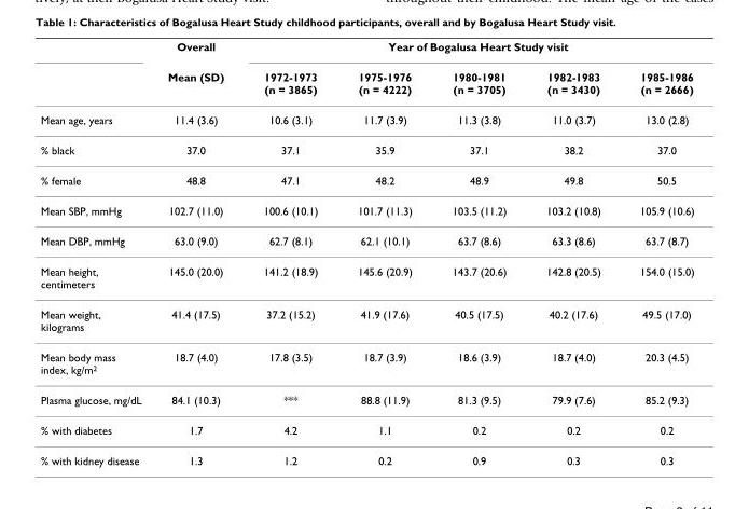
<table><thead><tr><td rowspan="2"></td><td rowspan="2">Overall Mean (SD)</td><td colspan="5">Year of Bogalusa Heart Study visit</td></tr><tr><td>1972-1973 (n = 3865)</td><td>1975-1976 (n = 4222)</td><td>1980-1981 (n = 3705)</td><td>1982-1983 (n = 3430)</td><td>1985-1986 (n = 2666)</td></tr></thead><tbody><tr><td>Mean age, years</td><td>11.4 (3.6)</td><td>10.6 (3.1)</td><td>11.7 (3.9)</td><td>11.3 (3.8)</td><td>11.0 (3.7)</td><td>13.0 (2.8)</td></tr><tr><td>% black</td><td>37.0</td><td>37.1</td><td>35.9</td><td>37.1</td><td>38.2</td><td>37.0</td></tr><tr><td>% female</td><td>48.8</td><td>47.1</td><td>48.2</td><td>48.9</td><td>49.8</td><td>50.5</td></tr><tr><td>Mean SBP, mmHg</td><td>102.7 (11.0)</td><td>100.6 (10.1)</td><td>101.7 (11.3)</td><td>103.5 (11.2)</td><td>103.2 (10.8)</td><td>105.9 (10.6)</td></tr><tr><td>Mean DBP, mmHg</td><td>63.0 (9.0)</td><td>62.7 (8.1)</td><td>62.1 (10.1)</td><td>63.7 (8.6)</td><td>63.3 (8.6)</td><td>63.7 (8.7)</td></tr><tr><td>Mean height, centimeters</td><td>145.0 (20.0)</td><td>141.2 (18.9)</td><td>145.6 (20.9)</td><td>143.7 (20.6)</td><td>142.8 (20.5)</td><td>154.0 (15.0)</td></tr><tr><td>Mean weight, kilograms</td><td>41.4 (17.5)</td><td>37.2 (15.2)</td><td>41.9 (17.6)</td><td>40.5 (17.5)</td><td>40.2 (17.6)</td><td>49.5 (17.0)</td></tr><tr><td>Mean body mass index, kg/m<sup>2</sup></td><td>18.7 (4.0)</td><td>17.8 (3.5)</td><td>18.7 (3.9)</td><td>18.6 (3.9)</td><td>18.7 (4.0)</td><td>20.3 (4.5)</td></tr><tr><td>Plasma glucose, mg/dL</td><td>84.1 (10.3)</td><td>***</td><td>88.8 (11.9)</td><td>81.3 (9.5)</td><td>79.9 (7.6)</td><td>85.2 (9.3)</td></tr><tr><td>% with diabetes</td><td>1.7</td><td>4.2</td><td>1.1</td><td>0.2</td><td>0.2</td><td>0.2</td></tr><tr><td>% with kidney disease</td><td>1.3</td><td>1.2</td><td>0.2</td><td>0.9</td><td>0.3</td><td>0.3</td></tr></tbody></table>